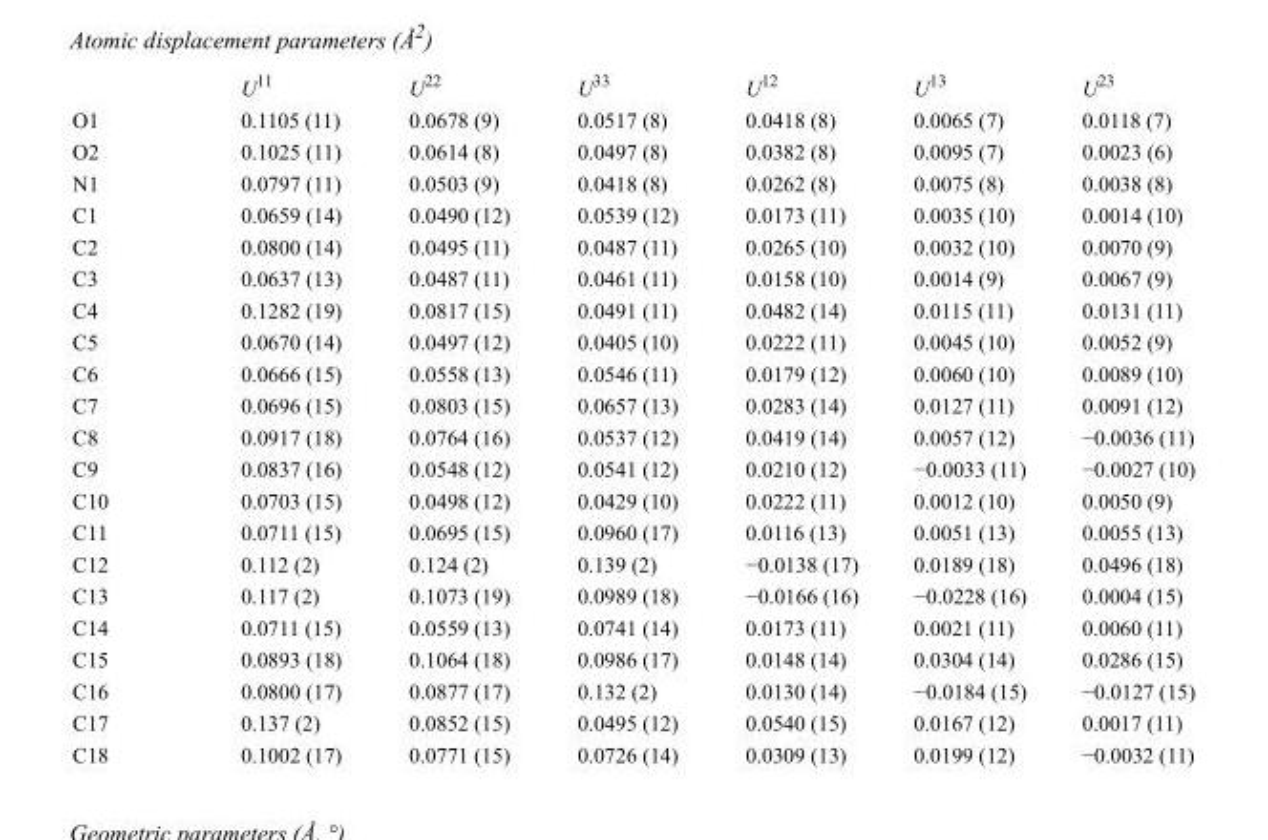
<table><thead><tr><td></td><td>U<sup>11</sup></td><td>U<sup>22</sup></td><td>U<sup>33</sup></td><td>U<sup>12</sup></td><td>U<sup>13</sup></td><td>U<sup>23</sup></td></tr></thead><tbody><tr><td>O1</td><td>0.1105 (11)</td><td>0.0678 (9)</td><td>0.0517 (8)</td><td>0.0418 (8)</td><td>0.0065 (7)</td><td>0.0118 (7)</td></tr><tr><td>O2</td><td>0.1025 (11)</td><td>0.0614 (8)</td><td>0.0497 (8)</td><td>0.0382 (8)</td><td>0.0095 (7)</td><td>0.0023 (6)</td></tr><tr><td>N1</td><td>0.0797 (11)</td><td>0.0503 (9)</td><td>0.0418 (8)</td><td>0.0262 (8)</td><td>0.0075 (8)</td><td>0.0038 (8)</td></tr><tr><td>C1</td><td>0.0659 (14)</td><td>0.0490 (12)</td><td>0.0539 (12)</td><td>0.0173 (11)</td><td>0.0035 (10)</td><td>0.0014 (10)</td></tr><tr><td>C2</td><td>0.0800 (14)</td><td>0.0495 (11)</td><td>0.0487 (11)</td><td>0.0265 (10)</td><td>0.0032 (10)</td><td>0.0070 (9)</td></tr><tr><td>C3</td><td>0.0637 (13)</td><td>0.0487 (11)</td><td>0.0461 (11)</td><td>0.0158 (10)</td><td>0.0014 (9)</td><td>0.0067 (9)</td></tr><tr><td>C4</td><td>0.1282 (19)</td><td>0.0817 (15)</td><td>0.0491 (11)</td><td>0.0482 (14)</td><td>0.0115 (11)</td><td>0.0131 (11)</td></tr><tr><td>C5</td><td>0.0670 (14)</td><td>0.0497 (12)</td><td>0.0405 (10)</td><td>0.0222 (11)</td><td>0.0045 (10)</td><td>0.0052 (9)</td></tr><tr><td>C6</td><td>0.0666 (15)</td><td>0.0558 (13)</td><td>0.0546 (11)</td><td>0.0179 (12)</td><td>0.0060 (10)</td><td>0.0089 (10)</td></tr><tr><td>C7</td><td>0.0696 (15)</td><td>0.0803 (15)</td><td>0.0657 (13)</td><td>0.0283 (14)</td><td>0.0127 (11)</td><td>0.0091 (12)</td></tr><tr><td>C8</td><td>0.0917 (18)</td><td>0.0764 (16)</td><td>0.0537 (12)</td><td>0.0419 (14)</td><td>0.0057 (12)</td><td>−0.0036 (11)</td></tr><tr><td>C9</td><td>0.0837 (16)</td><td>0.0548 (12)</td><td>0.0541 (12)</td><td>0.0210 (12)</td><td>−0.0033 (11)</td><td>−0.0027 (10)</td></tr><tr><td>C10</td><td>0.0703 (15)</td><td>0.0498 (12)</td><td>0.0429 (10)</td><td>0.0222 (11)</td><td>0.0012 (10)</td><td>0.0050 (9)</td></tr><tr><td>C11</td><td>0.0711 (15)</td><td>0.0695 (15)</td><td>0.0960 (17)</td><td>0.0116 (13)</td><td>0.0051 (13)</td><td>0.0055 (13)</td></tr><tr><td>C12</td><td>0.112 (2)</td><td>0.124 (2)</td><td>0.139 (2)</td><td>−0.0138 (17)</td><td>0.0189 (18)</td><td>0.0496 (18)</td></tr><tr><td>C13</td><td>0.117 (2)</td><td>0.1073 (19)</td><td>0.0989 (18)</td><td>−0.0166 (16)</td><td>−0.0228 (16)</td><td>0.0004 (15)</td></tr><tr><td>C14</td><td>0.0711 (15)</td><td>0.0559 (13)</td><td>0.0741 (14)</td><td>0.0173 (11)</td><td>0.0021 (11)</td><td>0.0060 (11)</td></tr><tr><td>C15</td><td>0.0893 (18)</td><td>0.1064 (18)</td><td>0.0986 (17)</td><td>0.0148 (14)</td><td>0.0304 (14)</td><td>0.0286 (15)</td></tr><tr><td>C16</td><td>0.0800 (17)</td><td>0.0877 (17)</td><td>0.132 (2)</td><td>0.0130 (14)</td><td>−0.0184 (15)</td><td>−0.0127 (15)</td></tr><tr><td>C17</td><td>0.137 (2)</td><td>0.0852 (15)</td><td>0.0495 (12)</td><td>0.0540 (15)</td><td>0.0167 (12)</td><td>0.0017 (11)</td></tr><tr><td>C18</td><td>0.1002 (17)</td><td>0.0771 (15)</td><td>0.0726 (14)</td><td>0.0309 (13)</td><td>0.0199 (12)</td><td>−0.0032 (11)</td></tr></tbody></table>